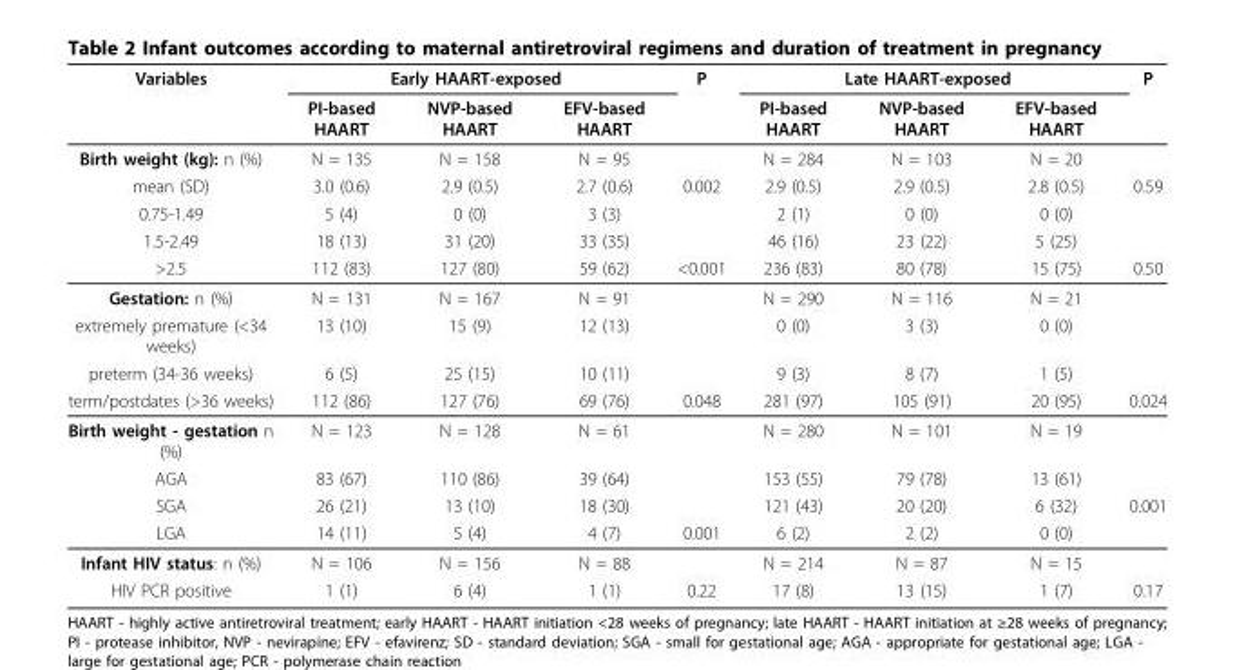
<table><thead><tr><td rowspan="2">Variables</td><td colspan="3">Early HAART-exposed</td><td rowspan="2">P</td><td colspan="3">Late HAART-exposed</td><td rowspan="2">P</td></tr><tr><td>PI-based HAART</td><td>NVP-based HAART</td><td>EFV-based HAART</td><td>PI-based HAART</td><td>NVP-based HAART</td><td>EFV-based HAART</td></tr></thead><tbody><tr><td>Birth weight (kg): n (%)</td><td>N = 135</td><td>N = 158</td><td>N = 95</td><td></td><td>N = 284</td><td>N = 103</td><td>N = 20</td><td></td></tr><tr><td>mean (SD)</td><td>3.0 (0.6)</td><td>2.9 (0.5)</td><td>2.7 (0.6)</td><td>0.002</td><td>2.9 (0.5)</td><td>2.9 (0.5)</td><td>2.8 (0.5)</td><td>0.59</td></tr><tr><td>0.75-1.49</td><td>5 (4)</td><td>0 (0)</td><td>3 (3)</td><td></td><td>2 (1)</td><td>0 (0)</td><td>0 (0)</td><td></td></tr><tr><td>1.5-2.49</td><td>18 (13)</td><td>31 (20)</td><td>33 (35)</td><td></td><td>46 (16)</td><td>23 (22)</td><td>5 (25)</td><td></td></tr><tr><td>&gt;2.5</td><td>112 (83)</td><td>127 (80)</td><td>59 (62)</td><td>&lt;0.001</td><td>236 (83)</td><td>80 (78)</td><td>15 (75)</td><td>0.50</td></tr><tr><td>Gestation: n (%)</td><td>N = 131</td><td>N = 167</td><td>N = 91</td><td></td><td>N = 290</td><td>N = 116</td><td>N = 21</td><td></td></tr><tr><td>extremely premature (&lt;34 weeks)</td><td>13 (10)</td><td>15 (9)</td><td>12 (13)</td><td></td><td>0 (0)</td><td>3 (3)</td><td>0 (0)</td><td></td></tr><tr><td>preterm (34-36 weeks)</td><td>6 (5)</td><td>25 (15)</td><td>10 (11)</td><td></td><td>9 (3)</td><td>8 (7)</td><td>1 (5)</td><td></td></tr><tr><td>term/postdates (&gt;36 weeks)</td><td>112 (86)</td><td>127 (76)</td><td>69 (76)</td><td>0.048</td><td>281 (97)</td><td>105 (91)</td><td>20 (95)</td><td>0.024</td></tr><tr><td>Birth weight - gestation n (%)</td><td>N = 123</td><td>N = 128</td><td>N = 61</td><td></td><td>N = 280</td><td>N = 101</td><td>N = 19</td><td></td></tr><tr><td>AGA</td><td>83 (67)</td><td>110 (86)</td><td>39 (64)</td><td></td><td>153 (55)</td><td>79 (78)</td><td>13 (61)</td><td></td></tr><tr><td>SGA</td><td>26 (21)</td><td>13 (10)</td><td>18 (30)</td><td></td><td>121 (43)</td><td>20 (20)</td><td>6 (32)</td><td>0.001</td></tr><tr><td>LGA</td><td>14 (11)</td><td>5 (4)</td><td>4 (7)</td><td>0.001</td><td>6 (2)</td><td>2 (2)</td><td>0 (0)</td><td></td></tr><tr><td>Infant HIV status: n (%)</td><td>N = 106</td><td>N = 156</td><td>N = 88</td><td></td><td>N = 214</td><td>N = 87</td><td>N = 15</td><td></td></tr><tr><td>HIV PCR positive</td><td>1 (1)</td><td>6 (4)</td><td>1 (1)</td><td>0.22</td><td>17 (8)</td><td>13 (15)</td><td>1 (7)</td><td>0.17</td></tr></tbody></table>